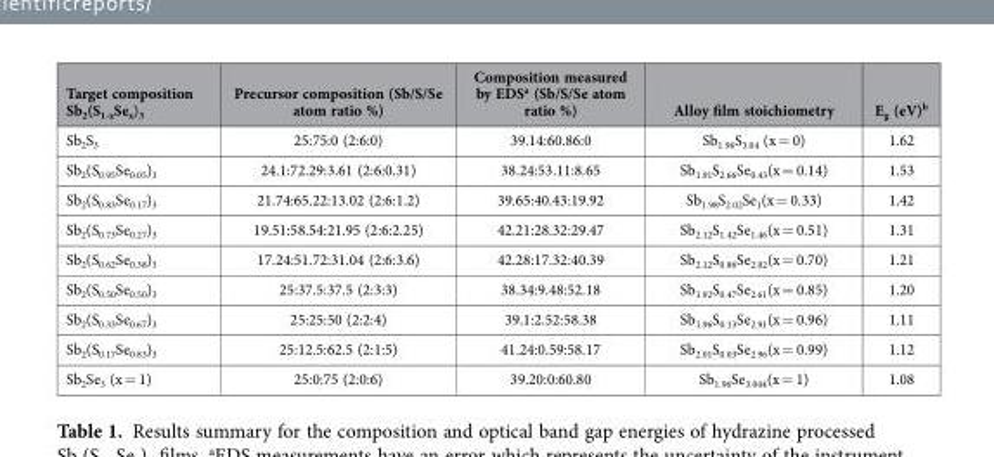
<table><thead><tr><td>Target composition Sb<sub>2</sub>(S<sub>1-x</sub>Se<sub>x</sub>)<sub>3</sub></td><td>Precursor composition (Sb/S/Se atom ratio %)</td><td>Composition measured by EDS<sup>a</sup> (Sb/S/Se atom ratio %)</td><td>Alloy film stoichiometry</td><td>E<sub>g</sub> (eV)<sup>b</sup></td></tr></thead><tbody><tr><td>Sb<sub>2</sub>S<sub>3</sub></td><td>25:75:0 (2:6:0)</td><td>39.14:60.86:0</td><td>Sb<sub>1.96</sub>S<sub>3.04</sub> (x = 0)</td><td>1.62</td></tr><tr><td>Sb<sub>2</sub>(S<sub>0.95</sub>Se<sub>0.05</sub>)<sub>3</sub></td><td>24.1:72.29:3.61 (2:6:0.31)</td><td>38.24:53.11:8.65</td><td>Sb<sub>1.91</sub>S<sub>2.66</sub>Se<sub>0.43</sub>(x = 0.14)</td><td>1.53</td></tr><tr><td>Sb<sub>2</sub>(S<sub>0.83</sub>Se<sub>0.17</sub>)<sub>3</sub></td><td>21.74:65.22:13.02 (2:6:1.2)</td><td>39.65:40.43:19.92</td><td>Sb<sub>1.98</sub>S<sub>2.02</sub>Se<sub>1</sub>(x = 0.33)</td><td>1.42</td></tr><tr><td>Sb<sub>2</sub>(S<sub>0.73</sub>Se<sub>0.27</sub>)<sub>3</sub></td><td>19.51:58.54:21.95 (2:6:2.25)</td><td>42.21:28.32:29.47</td><td>Sb<sub>2.12</sub>S<sub>1.42</sub>Se<sub>1.46</sub>(x = 0.51)</td><td>1.31</td></tr><tr><td>Sb<sub>2</sub>(S<sub>0.62</sub>Se<sub>0.38</sub>)<sub>3</sub></td><td>17.24:51.72:31.04 (2:6:3.6)</td><td>42.28:17.32:40.39</td><td>Sb<sub>2.12</sub>S<sub>0.86</sub>Se<sub>2.02</sub>(x = 0.70)</td><td>1.21</td></tr><tr><td>Sb<sub>2</sub>(S<sub>0.50</sub>Se<sub>0.50</sub>)<sub>3</sub></td><td>25:37.5:37.5 (2:3:3)</td><td>38.34:9.48:52.18</td><td>Sb<sub>1.92</sub>S<sub>0.47</sub>Se<sub>2.61</sub>(x = 0.85)</td><td>1.20</td></tr><tr><td>Sb<sub>2</sub>(S<sub>0.33</sub>Se<sub>0.67</sub>)<sub>3</sub></td><td>25:25:50 (2:2:4)</td><td>39.1:2.52:58.38</td><td>Sb<sub>1.96</sub>S<sub>0.13</sub>Se<sub>2.91</sub>(x = 0.96)</td><td>1.11</td></tr><tr><td>Sb<sub>2</sub>(S<sub>0.17</sub>Se<sub>0.83</sub>)<sub>3</sub></td><td>25:12.5:62.5 (2:1:5)</td><td>41.24:0.59:58.17</td><td>Sb<sub>2.01</sub>S<sub>0.03</sub>Se<sub>2.96</sub>(x = 0.99)</td><td>1.12</td></tr><tr><td>Sb<sub>2</sub>Se<sub>3</sub> (x = 1)</td><td>25:0:75 (2:0:6)</td><td>39.20:0:60.80</td><td>Sb<sub>1.96</sub>Se<sub>3.044</sub>(x = 1)</td><td>1.08</td></tr></tbody></table>